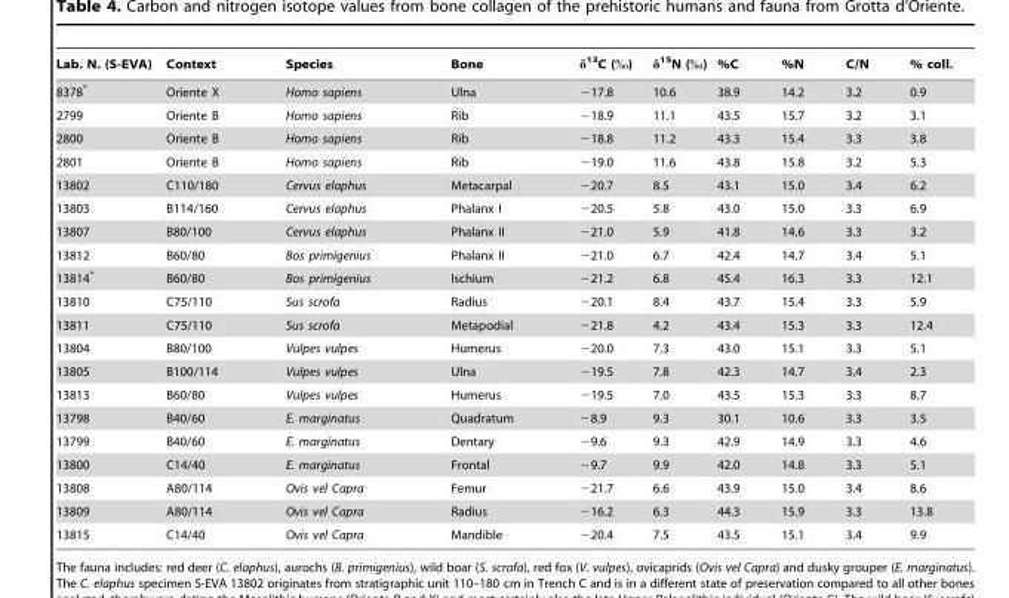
<table><thead><tr><td>Lab. N. (S-EVA)</td><td>Context</td><td>Species</td><td>Bone</td><td>δ<sup>13</sup>C (‰)</td><td>δ<sup>15</sup>N (‰)</td><td>%C</td><td>%N</td><td>C/N</td><td>% coll.</td></tr></thead><tbody><tr><td>8378*</td><td>Oriente X</td><td>Homo sapiens</td><td>Ulna</td><td>−17.8</td><td>10.6</td><td>38.9</td><td>14.2</td><td>3.2</td><td>0.9</td></tr><tr><td>2799</td><td>Oriente B</td><td>Homo sapiens</td><td>Rib</td><td>−18.9</td><td>11.1</td><td>43.5</td><td>15.7</td><td>3.2</td><td>3.1</td></tr><tr><td>2800</td><td>Oriente B</td><td>Homo sapiens</td><td>Rib</td><td>−18.8</td><td>11.2</td><td>43.3</td><td>15.4</td><td>3.3</td><td>3.8</td></tr><tr><td>2801</td><td>Oriente B</td><td>Homo sapiens</td><td>Rib</td><td>−19.0</td><td>11.6</td><td>43.8</td><td>15.8</td><td>3.2</td><td>5.3</td></tr><tr><td>13802</td><td>C110/180</td><td>Cervus elaphus</td><td>Metacarpal</td><td>−20.7</td><td>8.5</td><td>43.1</td><td>15.0</td><td>3.4</td><td>6.2</td></tr><tr><td>13803</td><td>B114/160</td><td>Cervus elaphus</td><td>Phalanx I</td><td>−20.5</td><td>5.8</td><td>43.0</td><td>15.0</td><td>3.3</td><td>6.9</td></tr><tr><td>13807</td><td>B80/100</td><td>Cervus elaphus</td><td>Phalanx II</td><td>−21.0</td><td>5.9</td><td>41.8</td><td>14.6</td><td>3.3</td><td>3.2</td></tr><tr><td>13812</td><td>B60/80</td><td>Bos primigenius</td><td>Phalanx II</td><td>−21.0</td><td>6.7</td><td>42.4</td><td>14.7</td><td>3.4</td><td>5.1</td></tr><tr><td>13814*</td><td>B60/80</td><td>Bos primigenius</td><td>Ischium</td><td>−21.2</td><td>6.8</td><td>45.4</td><td>16.3</td><td>3.3</td><td>12.1</td></tr><tr><td>13810</td><td>C75/110</td><td>Sus scrofa</td><td>Radius</td><td>−20.1</td><td>8.4</td><td>43.7</td><td>15.4</td><td>3.3</td><td>5.9</td></tr><tr><td>13811</td><td>C75/110</td><td>Sus scrofa</td><td>Metapodial</td><td>−21.8</td><td>4.2</td><td>43.4</td><td>15.3</td><td>3.3</td><td>12.4</td></tr><tr><td>13804</td><td>B80/100</td><td>Vulpes vulpes</td><td>Humerus</td><td>−20.0</td><td>7.3</td><td>43.0</td><td>15.1</td><td>3.3</td><td>5.1</td></tr><tr><td>13805</td><td>B100/114</td><td>Vulpes vulpes</td><td>Ulna</td><td>−19.5</td><td>7.8</td><td>42.3</td><td>14.7</td><td>3.4</td><td>2.3</td></tr><tr><td>13813</td><td>B60/80</td><td>Vulpes vulpes</td><td>Humerus</td><td>−19.5</td><td>7.0</td><td>43.5</td><td>15.3</td><td>3.3</td><td>8.7</td></tr><tr><td>13798</td><td>B40/60</td><td>E. marginatus</td><td>Quadratum</td><td>−8.9</td><td>9.3</td><td>30.1</td><td>10.6</td><td>3.3</td><td>3.5</td></tr><tr><td>13799</td><td>B40/60</td><td>E. marginatus</td><td>Dentary</td><td>−9.6</td><td>9.3</td><td>42.9</td><td>14.9</td><td>3.3</td><td>4.6</td></tr><tr><td>13800</td><td>C14/40</td><td>E. marginatus</td><td>Frontal</td><td>−9.7</td><td>9.9</td><td>42.0</td><td>14.8</td><td>3.3</td><td>5.1</td></tr><tr><td>13808</td><td>A80/114</td><td>Ovis vel Capra</td><td>Femur</td><td>−21.7</td><td>6.6</td><td>43.9</td><td>15.0</td><td>3.4</td><td>8.6</td></tr><tr><td>13809</td><td>A80/114</td><td>Ovis vel Capra</td><td>Radius</td><td>−16.2</td><td>6.3</td><td>44.3</td><td>15.9</td><td>3.3</td><td>13.8</td></tr><tr><td>13815</td><td>C14/40</td><td>Ovis vel Capra</td><td>Mandible</td><td>−20.4</td><td>7.5</td><td>43.5</td><td>15.1</td><td>3.4</td><td>9.9</td></tr></tbody></table>